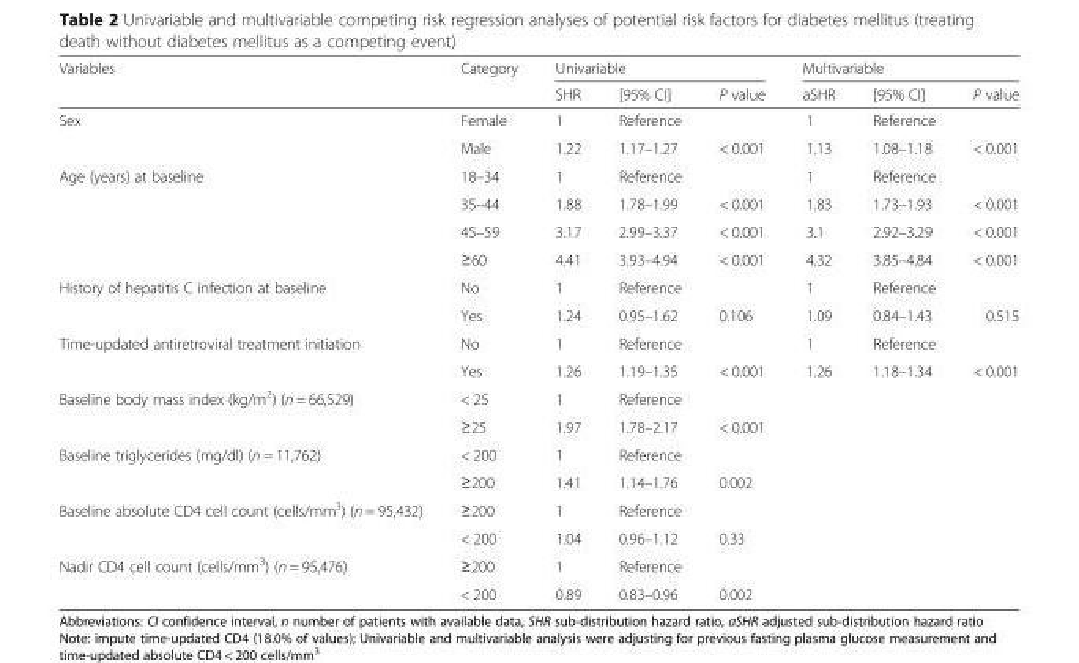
<table><thead><tr><td rowspan="2">Variables</td><td rowspan="2">Category</td><td colspan="3">Univariable</td><td colspan="3">Multivariable</td></tr><tr><td>SHR</td><td>[95% CI]</td><td>P value</td><td>aSHR</td><td>[95% CI]</td><td>P value</td></tr></thead><tbody><tr><td rowspan="2">Sex</td><td>Female</td><td>1</td><td>Reference</td><td></td><td>1</td><td>Reference</td><td></td></tr><tr><td>Male</td><td>1.22</td><td>1.17–1.27</td><td>&lt; 0.001</td><td>1.13</td><td>1.08–1.18</td><td>&lt; 0.001</td></tr><tr><td rowspan="4">Age (years) at baseline</td><td>18–34</td><td>1</td><td>Reference</td><td></td><td>1</td><td>Reference</td><td></td></tr><tr><td>35–44</td><td>1.88</td><td>1.78–1.99</td><td>&lt; 0.001</td><td>1.83</td><td>1.73–1.93</td><td>&lt; 0.001</td></tr><tr><td>45–59</td><td>3.17</td><td>2.99–3.37</td><td>&lt; 0.001</td><td>3.1</td><td>2.92–3.29</td><td>&lt; 0.001</td></tr><tr><td>≥60</td><td>4.41</td><td>3.93–4.94</td><td>&lt; 0.001</td><td>4.32</td><td>3.85–4.84</td><td>&lt; 0.001</td></tr><tr><td rowspan="2">History of hepatitis C infection at baseline</td><td>No</td><td>1</td><td>Reference</td><td></td><td>1</td><td>Reference</td><td></td></tr><tr><td>Yes</td><td>1.24</td><td>0.95–1.62</td><td>0.106</td><td>1.09</td><td>0.84–1.43</td><td>0.515</td></tr><tr><td rowspan="2">Time-updated antiretroviral treatment initiation</td><td>No</td><td>1</td><td>Reference</td><td></td><td>1</td><td>Reference</td><td></td></tr><tr><td>Yes</td><td>1.26</td><td>1.19–1.35</td><td>&lt; 0.001</td><td>1.26</td><td>1.18–1.34</td><td>&lt; 0.001</td></tr><tr><td rowspan="2">Baseline body mass index (kg/m<sup>2</sup>) (n = 66,529)</td><td>&lt; 25</td><td>1</td><td>Reference</td><td></td><td></td><td></td><td></td></tr><tr><td>≥25</td><td>1.97</td><td>1.78–2.17</td><td>&lt; 0.001</td><td></td><td></td><td></td></tr><tr><td rowspan="2">Baseline triglycerides (mg/dl) (n = 11,762)</td><td>&lt; 200</td><td>1</td><td>Reference</td><td></td><td></td><td></td><td></td></tr><tr><td>≥200</td><td>1.41</td><td>1.14–1.76</td><td>0.002</td><td></td><td></td><td></td></tr><tr><td rowspan="2">Baseline absolute CD4 cell count (cells/mm<sup>3</sup>) (n = 95,432)</td><td>≥200</td><td>1</td><td>Reference</td><td></td><td></td><td></td><td></td></tr><tr><td>&lt; 200</td><td>1.04</td><td>0.96–1.12</td><td>0.33</td><td></td><td></td><td></td></tr><tr><td rowspan="2">Nadir CD4 cell count (cells/mm<sup>3</sup>) (n = 95,476)</td><td>≥200</td><td>1</td><td>Reference</td><td></td><td></td><td></td><td></td></tr><tr><td>&lt; 200</td><td>0.89</td><td>0.83–0.96</td><td>0.002</td><td></td><td></td><td></td></tr></tbody></table>